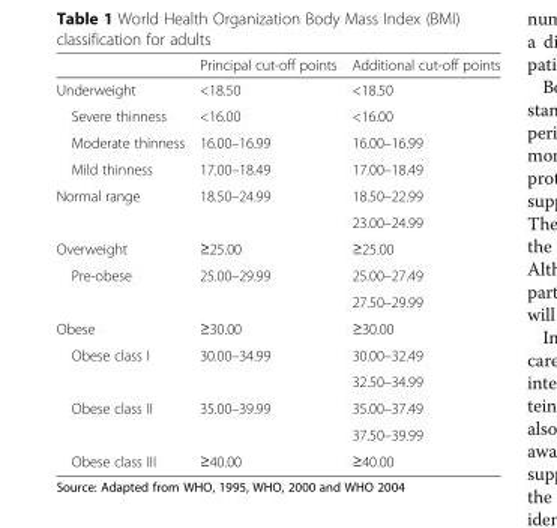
<table><thead><tr><td></td><td>Principal cut-off points</td><td>Additional cut-off points</td></tr></thead><tbody><tr><td>Underweight</td><td>&lt;18.50</td><td>&lt;18.50</td></tr><tr><td>Severe thinness</td><td>&lt;16.00</td><td>&lt;16.00</td></tr><tr><td>Moderate thinness</td><td>16.00–16.99</td><td>16.00–16.99</td></tr><tr><td>Mild thinness</td><td>17.00–18.49</td><td>17.00–18.49</td></tr><tr><td rowspan="2">Normal range</td><td rowspan="2">18.50–24.99</td><td>18.50–22.99</td></tr><tr><td>23.00–24.99</td></tr><tr><td>Overweight</td><td>≥25.00</td><td>≥25.00</td></tr><tr><td rowspan="2">Pre-obese</td><td rowspan="2">25.00–29.99</td><td>25.00–27.49</td></tr><tr><td>27.50–29.99</td></tr><tr><td>Obese</td><td>≥30.00</td><td>≥30.00</td></tr><tr><td rowspan="2">Obese class I</td><td rowspan="2">30.00–34.99</td><td>30.00–32.49</td></tr><tr><td>32.50–34.99</td></tr><tr><td rowspan="2">Obese class II</td><td rowspan="2">35.00–39.99</td><td>35.00–37.49</td></tr><tr><td>37.50–39.99</td></tr><tr><td>Obese class III</td><td>≥40.00</td><td>≥40.00</td></tr></tbody></table>